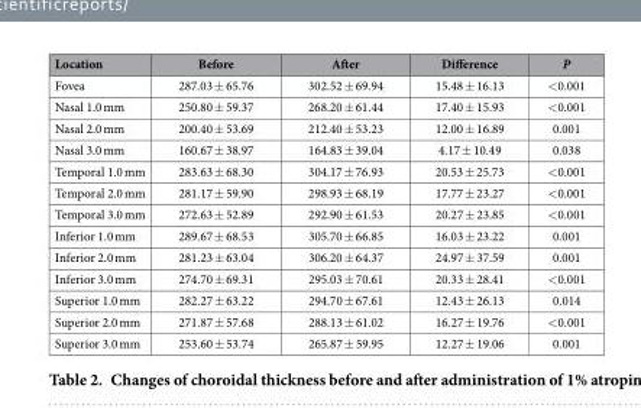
<table><thead><tr><td>Location</td><td>Before</td><td>After</td><td>Difference</td><td>P</td></tr></thead><tbody><tr><td>Fovea</td><td>287.03 ± 65.76</td><td>302.52 ± 69.94</td><td>15.48 ± 16.13</td><td>&lt; 0.001</td></tr><tr><td>Nasal 1.0 mm</td><td>250.80 ± 59.37</td><td>268.20 ± 61.44</td><td>17.40 ± 15.93</td><td>&lt; 0.001</td></tr><tr><td>Nasal 2.0 mm</td><td>200.40 ± 53.69</td><td>212.40 ± 53.23</td><td>12.00 ± 16.89</td><td>0.001</td></tr><tr><td>Nasal 3.0 mm</td><td>160.67 ± 38.97</td><td>164.83 ± 39.04</td><td>4.17 ± 10.49</td><td>0.038</td></tr><tr><td>Temporal 1.0 mm</td><td>283.63 ± 68.30</td><td>304.17 ± 76.93</td><td>20.53 ± 25.73</td><td>&lt; 0.001</td></tr><tr><td>Temporal 2.0 mm</td><td>281.17 ± 59.90</td><td>298.93 ± 68.19</td><td>17.77 ± 23.27</td><td>&lt; 0.001</td></tr><tr><td>Temporal 3.0 mm</td><td>272.63 ± 52.89</td><td>292.90 ± 61.53</td><td>20.27 ± 23.85</td><td>&lt; 0.001</td></tr><tr><td>Inferior 1.0 mm</td><td>289.67 ± 68.53</td><td>305.70 ± 66.85</td><td>16.03 ± 23.22</td><td>0.001</td></tr><tr><td>Inferior 2.0 mm</td><td>281.23 ± 63.04</td><td>306.20 ± 64.37</td><td>24.97 ± 37.59</td><td>0.001</td></tr><tr><td>Inferior 3.0 mm</td><td>274.70 ± 69.31</td><td>295.03 ± 70.61</td><td>20.33 ± 28.41</td><td>&lt; 0.001</td></tr><tr><td>Superior 1.0 mm</td><td>282.27 ± 63.22</td><td>294.70 ± 67.61</td><td>12.43 ± 26.13</td><td>0.014</td></tr><tr><td>Superior 2.0 mm</td><td>271.87 ± 57.68</td><td>288.13 ± 61.02</td><td>16.27 ± 19.76</td><td>&lt; 0.001</td></tr><tr><td>Superior 3.0 mm</td><td>253.60 ± 53.74</td><td>265.87 ± 59.95</td><td>12.27 ± 19.06</td><td>0.001</td></tr></tbody></table>